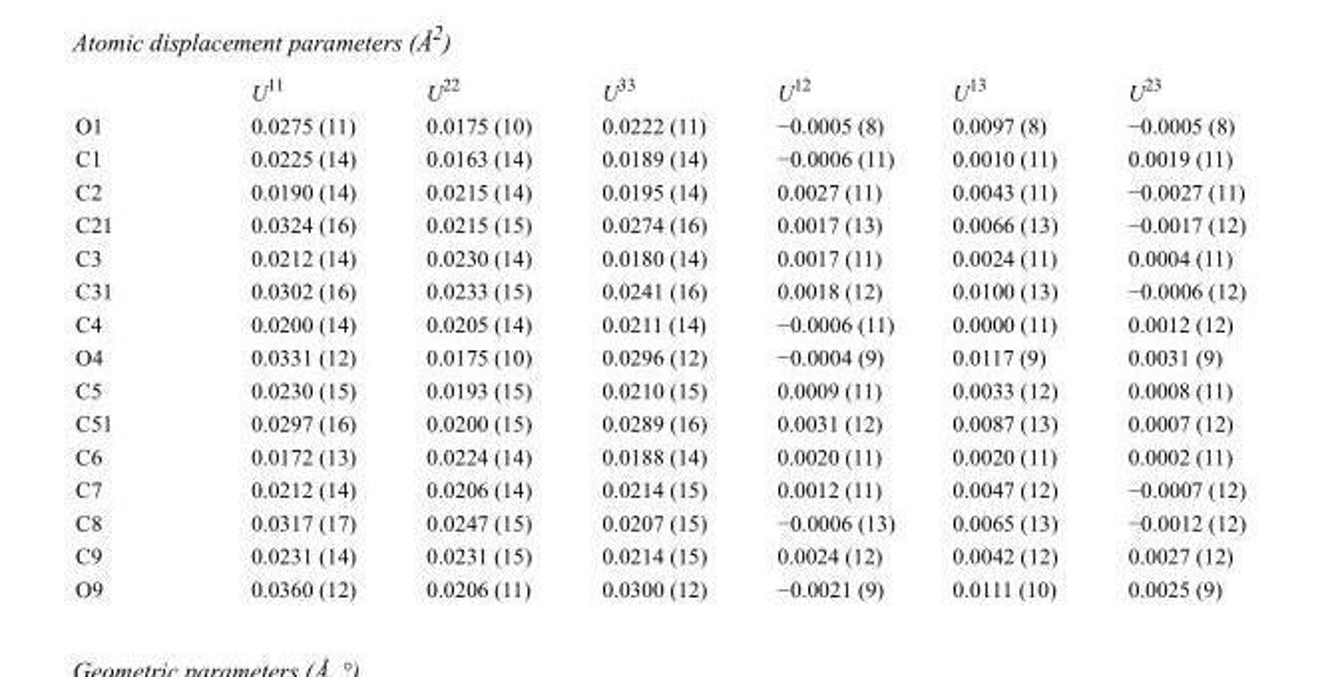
<table><thead><tr><td></td><td>U<sup>11</sup></td><td>U<sup>22</sup></td><td>U<sup>33</sup></td><td>U<sup>12</sup></td><td>U<sup>13</sup></td><td>U<sup>23</sup></td></tr></thead><tbody><tr><td>O1</td><td>0.0275 (11)</td><td>0.0175 (10)</td><td>0.0222 (11)</td><td>−0.0005 (8)</td><td>0.0097 (8)</td><td>−0.0005 (8)</td></tr><tr><td>C1</td><td>0.0225 (14)</td><td>0.0163 (14)</td><td>0.0189 (14)</td><td>−0.0006 (11)</td><td>0.0010 (11)</td><td>0.0019 (11)</td></tr><tr><td>C2</td><td>0.0190 (14)</td><td>0.0215 (14)</td><td>0.0195 (14)</td><td>0.0027 (11)</td><td>0.0043 (11)</td><td>−0.0027 (11)</td></tr><tr><td>C21</td><td>0.0324 (16)</td><td>0.0215 (15)</td><td>0.0274 (16)</td><td>0.0017 (13)</td><td>0.0066 (13)</td><td>−0.0017 (12)</td></tr><tr><td>C3</td><td>0.0212 (14)</td><td>0.0230 (14)</td><td>0.0180 (14)</td><td>0.0017 (11)</td><td>0.0024 (11)</td><td>0.0004 (11)</td></tr><tr><td>C31</td><td>0.0302 (16)</td><td>0.0233 (15)</td><td>0.0241 (16)</td><td>0.0018 (12)</td><td>0.0100 (13)</td><td>−0.0006 (12)</td></tr><tr><td>C4</td><td>0.0200 (14)</td><td>0.0205 (14)</td><td>0.0211 (14)</td><td>−0.0006 (11)</td><td>0.0000 (11)</td><td>0.0012 (12)</td></tr><tr><td>O4</td><td>0.0331 (12)</td><td>0.0175 (10)</td><td>0.0296 (12)</td><td>−0.0004 (9)</td><td>0.0117 (9)</td><td>0.0031 (9)</td></tr><tr><td>C5</td><td>0.0230 (15)</td><td>0.0193 (15)</td><td>0.0210 (15)</td><td>0.0009 (11)</td><td>0.0033 (12)</td><td>0.0008 (11)</td></tr><tr><td>C51</td><td>0.0297 (16)</td><td>0.0200 (15)</td><td>0.0289 (16)</td><td>0.0031 (12)</td><td>0.0087 (13)</td><td>0.0007 (12)</td></tr><tr><td>C6</td><td>0.0172 (13)</td><td>0.0224 (14)</td><td>0.0188 (14)</td><td>0.0020 (11)</td><td>0.0020 (11)</td><td>0.0002 (11)</td></tr><tr><td>C7</td><td>0.0212 (14)</td><td>0.0206 (14)</td><td>0.0214 (15)</td><td>0.0012 (11)</td><td>0.0047 (12)</td><td>−0.0007 (12)</td></tr><tr><td>C8</td><td>0.0317 (17)</td><td>0.0247 (15)</td><td>0.0207 (15)</td><td>−0.0006 (13)</td><td>0.0065 (13)</td><td>−0.0012 (12)</td></tr><tr><td>C9</td><td>0.0231 (14)</td><td>0.0231 (15)</td><td>0.0214 (15)</td><td>0.0024 (12)</td><td>0.0042 (12)</td><td>0.0027 (12)</td></tr><tr><td>O9</td><td>0.0360 (12)</td><td>0.0206 (11)</td><td>0.0300 (12)</td><td>−0.0021 (9)</td><td>0.0111 (10)</td><td>0.0025 (9)</td></tr></tbody></table>